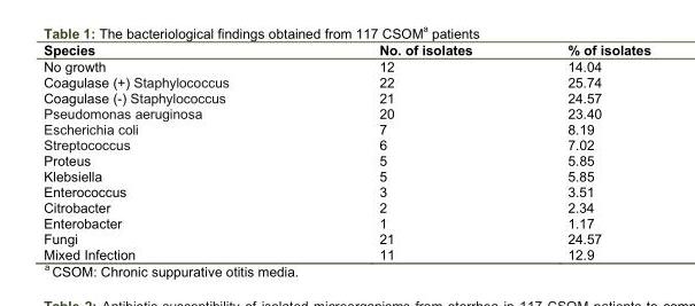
<table><thead><tr><td>Species</td><td>No. of isolates</td><td>% of isolates</td></tr></thead><tbody><tr><td>No growth</td><td>12</td><td>14.04</td></tr><tr><td>Coagulase (+) Staphylococcus</td><td>22</td><td>25.74</td></tr><tr><td>Coagulase (-) Staphylococcus</td><td>21</td><td>24.57</td></tr><tr><td>Pseudomonas aeruginosa</td><td>20</td><td>23.40</td></tr><tr><td>Escherichia coli</td><td>7</td><td>8.19</td></tr><tr><td>Streptococcus</td><td>6</td><td>7.02</td></tr><tr><td>Proteus</td><td>5</td><td>5.85</td></tr><tr><td>Klebsiella</td><td>5</td><td>5.85</td></tr><tr><td>Enterococcus</td><td>3</td><td>3.51</td></tr><tr><td>Citrobacter</td><td>2</td><td>2.34</td></tr><tr><td>Enterobacter</td><td>1</td><td>1.17</td></tr><tr><td>Fungi</td><td>21</td><td>24.57</td></tr><tr><td>Mixed Infection</td><td>11</td><td>12.9</td></tr></tbody></table>